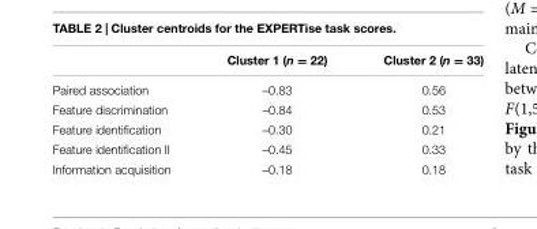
<table><thead><tr><td></td><td>Cluster 1 (n = 22)</td><td>Cluster 2 (n = 33)</td></tr></thead><tbody><tr><td>Paired association</td><td>–0.83</td><td>0.56</td></tr><tr><td>Feature discrimination</td><td>–0.84</td><td>0.53</td></tr><tr><td>Feature identification</td><td>–0.30</td><td>0.21</td></tr><tr><td>Feature identification II</td><td>–0.45</td><td>0.33</td></tr><tr><td>Information acquisition</td><td>–0.18</td><td>0.18</td></tr></tbody></table>